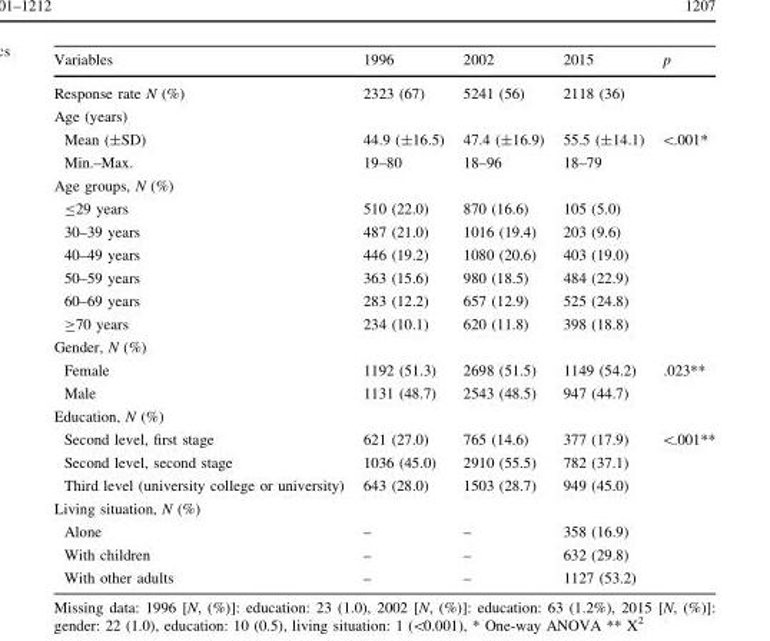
<table><thead><tr><td>Variables</td><td>1996</td><td>2002</td><td>2015</td><td>p</td></tr></thead><tbody><tr><td>Response rate N (%)</td><td>2323 (67)</td><td>5241 (56)</td><td>2118 (36)</td><td></td></tr><tr><td colspan="5">Age (years)</td></tr><tr><td>Mean (±SD)</td><td>44.9 (±16.5)</td><td>47.4 (±16.9)</td><td>55.5 (±14.1)</td><td rowspan="2">&lt;.001*</td></tr><tr><td>Min.–Max.</td><td>19–80</td><td>18–96</td><td>18–79</td></tr><tr><td colspan="5">Age groups, N (%)</td></tr><tr><td>≤29 years</td><td>510 (22.0)</td><td>870 (16.6)</td><td>105 (5.0)</td><td rowspan="6"></td></tr><tr><td>30–39 years</td><td>487 (21.0)</td><td>1016 (19.4)</td><td>203 (9.6)</td></tr><tr><td>40–49 years</td><td>446 (19.2)</td><td>1080 (20.6)</td><td>403 (19.0)</td></tr><tr><td>50–59 years</td><td>363 (15.6)</td><td>980 (18.5)</td><td>484 (22.9)</td></tr><tr><td>60–69 years</td><td>283 (12.2)</td><td>657 (12.9)</td><td>525 (24.8)</td></tr><tr><td>≥70 years</td><td>234 (10.1)</td><td>620 (11.8)</td><td>398 (18.8)</td></tr><tr><td colspan="5">Gender, N (%)</td></tr><tr><td>Female</td><td>1192 (51.3)</td><td>2698 (51.5)</td><td>1149 (54.2)</td><td rowspan="2">.023**</td></tr><tr><td>Male</td><td>1131 (48.7)</td><td>2543 (48.5)</td><td>947 (44.7)</td></tr><tr><td colspan="5">Education, N (%)</td></tr><tr><td>Second level, first stage</td><td>621 (27.0)</td><td>765 (14.6)</td><td>377 (17.9)</td><td rowspan="3">&lt;.001**</td></tr><tr><td>Second level, second stage</td><td>1036 (45.0)</td><td>2910 (55.5)</td><td>782 (37.1)</td></tr><tr><td>Third level (university college or university)</td><td>643 (28.0)</td><td>1503 (28.7)</td><td>949 (45.0)</td></tr><tr><td colspan="5">Living situation, N (%)</td></tr><tr><td>Alone</td><td>–</td><td>–</td><td>358 (16.9)</td><td rowspan="3"></td></tr><tr><td>With children</td><td>–</td><td>–</td><td>632 (29.8)</td></tr><tr><td>With other adults</td><td>–</td><td>–</td><td>1127 (53.2)</td></tr></tbody></table>